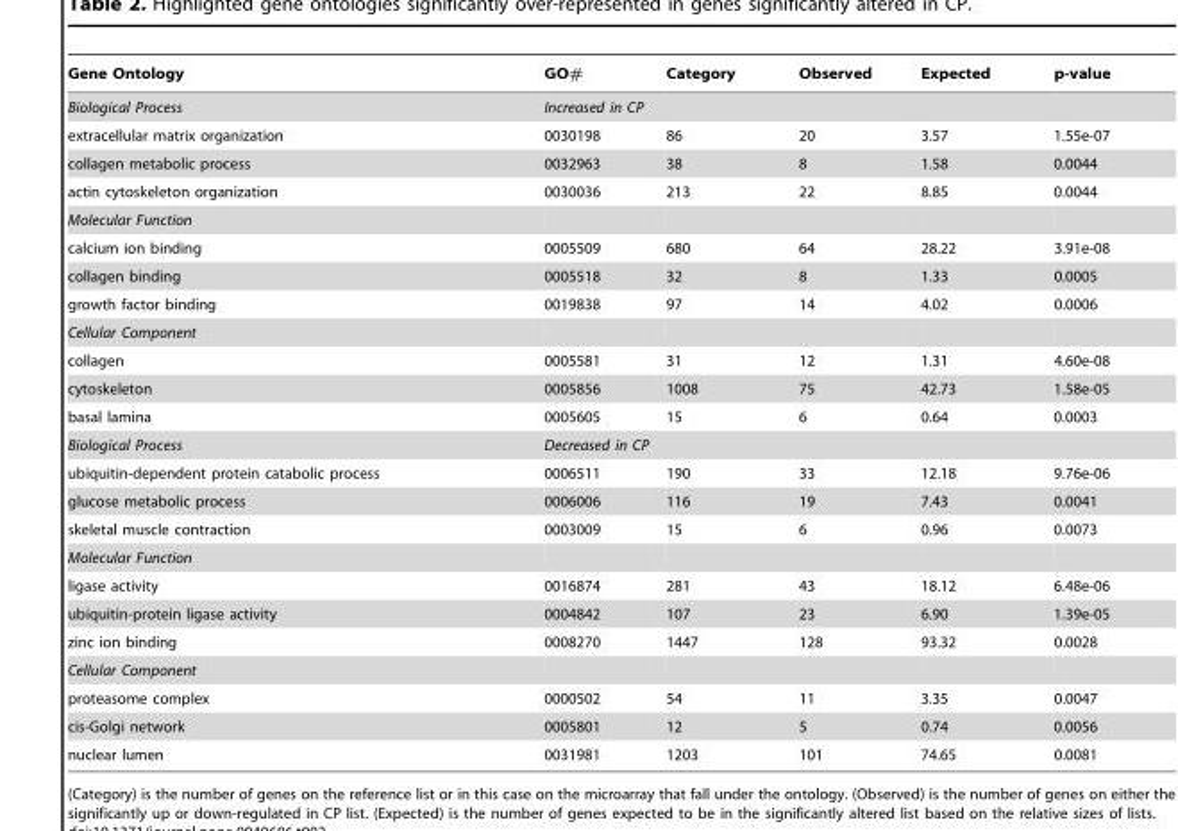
<table><thead><tr><td>Gene Ontology</td><td>GO#</td><td>Category</td><td>Observed</td><td>Expected</td><td>p-value</td></tr></thead><tbody><tr><td>Biological Process</td><td colspan="5">Increased in CP</td></tr><tr><td>extracellular matrix organization</td><td>0030198</td><td>86</td><td>20</td><td>3.57</td><td>1.55e-07</td></tr><tr><td>collagen metabolic process</td><td>0032963</td><td>38</td><td>8</td><td>1.58</td><td>0.0044</td></tr><tr><td>actin cytoskeleton organization</td><td>0030036</td><td>213</td><td>22</td><td>8.85</td><td>0.0044</td></tr><tr><td colspan="6">Molecular Function</td></tr><tr><td>calcium ion binding</td><td>0005509</td><td>680</td><td>64</td><td>28.22</td><td>3.91e-08</td></tr><tr><td>collagen binding</td><td>0005518</td><td>32</td><td>8</td><td>1.33</td><td>0.0005</td></tr><tr><td>growth factor binding</td><td>0019838</td><td>97</td><td>14</td><td>4.02</td><td>0.0006</td></tr><tr><td colspan="6">Cellular Component</td></tr><tr><td>collagen</td><td>0005581</td><td>31</td><td>12</td><td>1.31</td><td>4.60e-08</td></tr><tr><td>cytoskeleton</td><td>0005856</td><td>1008</td><td>75</td><td>42.73</td><td>1.58e-05</td></tr><tr><td>basal lamina</td><td>0005605</td><td>15</td><td>6</td><td>0.64</td><td>0.0003</td></tr><tr><td>Biological Process</td><td colspan="5">Decreased in CP</td></tr><tr><td>ubiquitin-dependent protein catabolic process</td><td>0006511</td><td>190</td><td>33</td><td>12.18</td><td>9.76e-06</td></tr><tr><td>glucose metabolic process</td><td>0006006</td><td>116</td><td>19</td><td>7.43</td><td>0.0041</td></tr><tr><td>skeletal muscle contraction</td><td>0003009</td><td>15</td><td>6</td><td>0.96</td><td>0.0073</td></tr><tr><td colspan="6">Molecular Function</td></tr><tr><td>ligase activity</td><td>0016874</td><td>281</td><td>43</td><td>18.12</td><td>6.48e-06</td></tr><tr><td>ubiquitin-protein ligase activity</td><td>0004842</td><td>107</td><td>23</td><td>6.90</td><td>1.39e-05</td></tr><tr><td>zinc ion binding</td><td>0008270</td><td>1447</td><td>128</td><td>93.32</td><td>0.0028</td></tr><tr><td colspan="6">Cellular Component</td></tr><tr><td>proteasome complex</td><td>0000502</td><td>54</td><td>11</td><td>3.35</td><td>0.0047</td></tr><tr><td>cis-Golgi network</td><td>0005801</td><td>12</td><td>5</td><td>0.74</td><td>0.0056</td></tr><tr><td>nuclear lumen</td><td>0031981</td><td>1203</td><td>101</td><td>74.65</td><td>0.0081</td></tr></tbody></table>